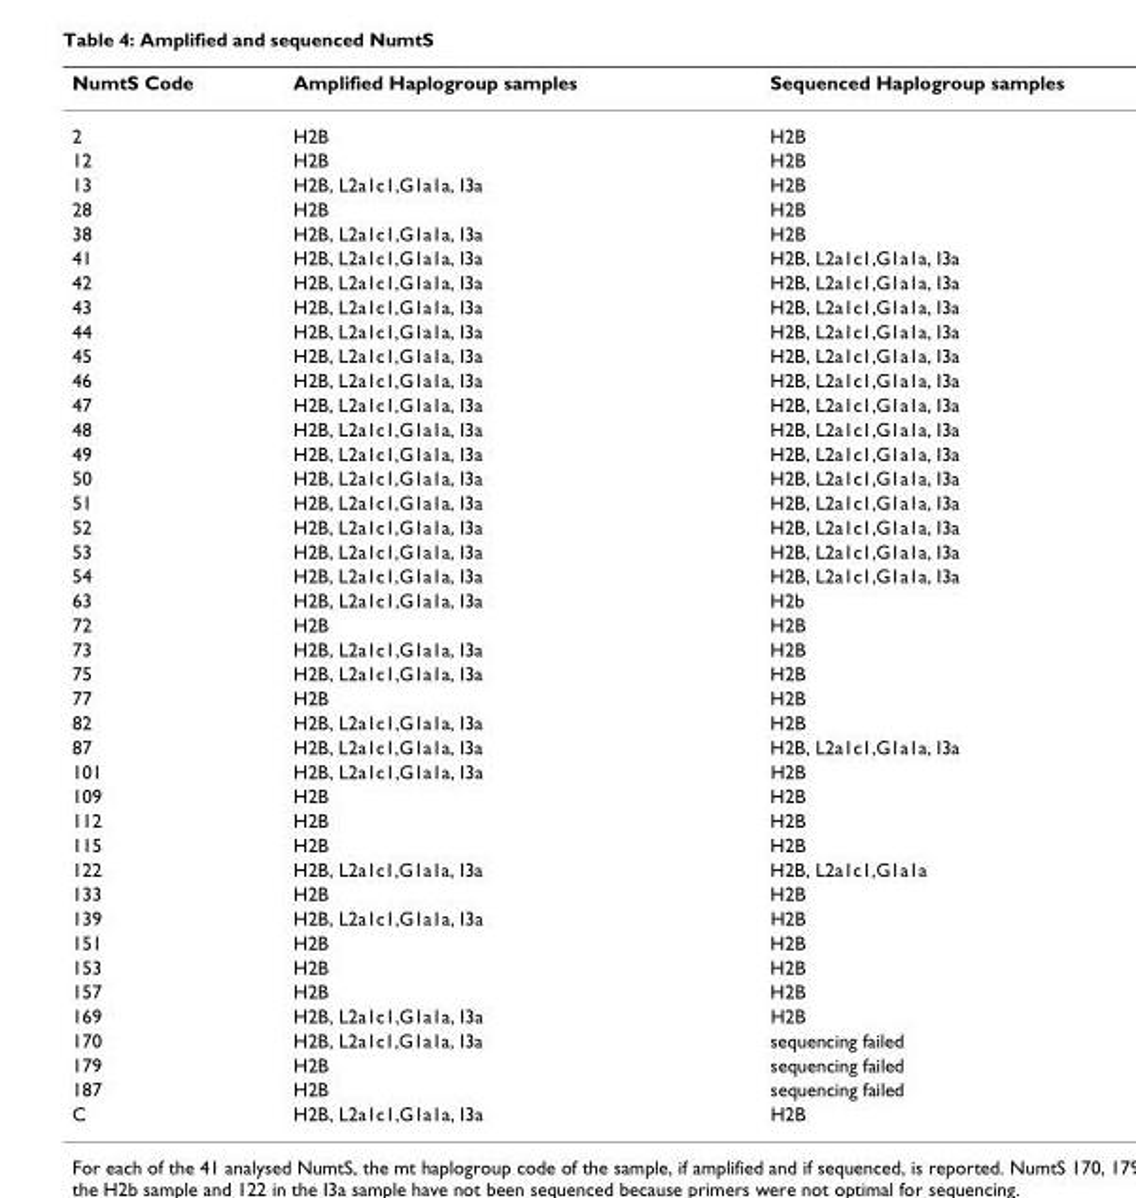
<table><thead><tr><td>NumtS Code</td><td>Amplified Haplogroup samples</td><td>Sequenced Haplogroup samples</td></tr></thead><tbody><tr><td>2</td><td>H2B</td><td>H2B</td></tr><tr><td>12</td><td>H2B</td><td>H2B</td></tr><tr><td>13</td><td>H2B, L2a1c1,G1a1a, I3a</td><td>H2B</td></tr><tr><td>28</td><td>H2B</td><td>H2B</td></tr><tr><td>38</td><td>H2B, L2a1c1,G1a1a, I3a</td><td>H2B</td></tr><tr><td>41</td><td>H2B, L2a1c1,G1a1a, I3a</td><td>H2B, L2a1c1,G1a1a, I3a</td></tr><tr><td>42</td><td>H2B, L2a1c1,G1a1a, I3a</td><td>H2B, L2a1c1,G1a1a, I3a</td></tr><tr><td>43</td><td>H2B, L2a1c1,G1a1a, I3a</td><td>H2B, L2a1c1,G1a1a, I3a</td></tr><tr><td>44</td><td>H2B, L2a1c1,G1a1a, I3a</td><td>H2B, L2a1c1,G1a1a, I3a</td></tr><tr><td>45</td><td>H2B, L2a1c1,G1a1a, I3a</td><td>H2B, L2a1c1,G1a1a, I3a</td></tr><tr><td>46</td><td>H2B, L2a1c1,G1a1a, I3a</td><td>H2B, L2a1c1,G1a1a, I3a</td></tr><tr><td>47</td><td>H2B, L2a1c1,G1a1a, I3a</td><td>H2B, L2a1c1,G1a1a, I3a</td></tr><tr><td>48</td><td>H2B, L2a1c1,G1a1a, I3a</td><td>H2B, L2a1c1,G1a1a, I3a</td></tr><tr><td>49</td><td>H2B, L2a1c1,G1a1a, I3a</td><td>H2B, L2a1c1,G1a1a, I3a</td></tr><tr><td>50</td><td>H2B, L2a1c1,G1a1a, I3a</td><td>H2B, L2a1c1,G1a1a, I3a</td></tr><tr><td>51</td><td>H2B, L2a1c1,G1a1a, I3a</td><td>H2B, L2a1c1,G1a1a, I3a</td></tr><tr><td>52</td><td>H2B, L2a1c1,G1a1a, I3a</td><td>H2B, L2a1c1,G1a1a, I3a</td></tr><tr><td>53</td><td>H2B, L2a1c1,G1a1a, I3a</td><td>H2B, L2a1c1,G1a1a, I3a</td></tr><tr><td>54</td><td>H2B, L2a1c1,G1a1a, I3a</td><td>H2B, L2a1c1,G1a1a, I3a</td></tr><tr><td>63</td><td>H2B, L2a1c1,G1a1a, I3a</td><td>H2b</td></tr><tr><td>72</td><td>H2B</td><td>H2B</td></tr><tr><td>73</td><td>H2B, L2a1c1,G1a1a, I3a</td><td>H2B</td></tr><tr><td>75</td><td>H2B, L2a1c1,G1a1a, I3a</td><td>H2B</td></tr><tr><td>77</td><td>H2B</td><td>H2B</td></tr><tr><td>82</td><td>H2B, L2a1c1,G1a1a, I3a</td><td>H2B</td></tr><tr><td>87</td><td>H2B, L2a1c1,G1a1a, I3a</td><td>H2B, L2a1c1,G1a1a, I3a</td></tr><tr><td>101</td><td>H2B, L2a1c1,G1a1a, I3a</td><td>H2B</td></tr><tr><td>109</td><td>H2B</td><td>H2B</td></tr><tr><td>112</td><td>H2B</td><td>H2B</td></tr><tr><td>115</td><td>H2B</td><td>H2B</td></tr><tr><td>122</td><td>H2B, L2a1c1,G1a1a, I3a</td><td>H2B, L2a1c1,G1a1a</td></tr><tr><td>133</td><td>H2B</td><td>H2B</td></tr><tr><td>139</td><td>H2B, L2a1c1,G1a1a, I3a</td><td>H2B</td></tr><tr><td>151</td><td>H2B</td><td>H2B</td></tr><tr><td>153</td><td>H2B</td><td>H2B</td></tr><tr><td>157</td><td>H2B</td><td>H2B</td></tr><tr><td>169</td><td>H2B, L2a1c1,G1a1a, I3a</td><td>H2B</td></tr><tr><td>170</td><td>H2B, L2a1c1,G1a1a, I3a</td><td>sequencing failed</td></tr><tr><td>179</td><td>H2B</td><td>sequencing failed</td></tr><tr><td>187</td><td>H2B</td><td>sequencing failed</td></tr><tr><td>C</td><td>H2B, L2a1c1,G1a1a, I3a</td><td>H2B</td></tr></tbody></table>